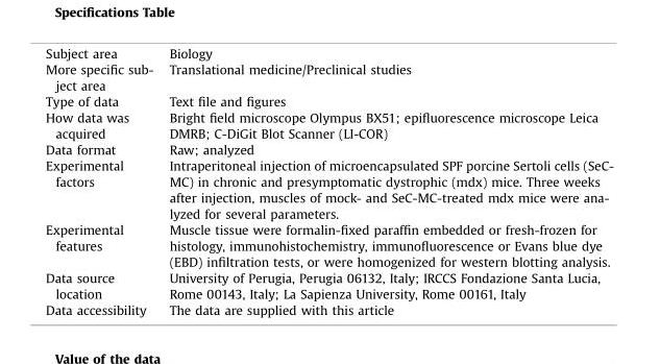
<table><tbody><tr><td>Subject area</td><td>Biology</td></tr><tr><td>More specific sub- ject area</td><td>Translational medicine/Preclinical studies</td></tr><tr><td>Type of data</td><td>Text file and figures</td></tr><tr><td>How data was acquired</td><td>Bright field microscope Olympus BX51; epifluorescence microscope Leica DMRB; C-DiGit Blot Scanner (LI-COR)</td></tr><tr><td>Data format</td><td>Raw; analyzed</td></tr><tr><td>Experimental factors</td><td>Intraperitoneal injection of microencapsulated SPF porcine Sertoli cells (SeC- MC) in chronic and presymptomatic dystrophic (mdx) mice. Three weeks after injection, muscles of mock- and SeC-MC-treated mdx mice were ana- lyzed for several parameters.</td></tr><tr><td>Experimental features</td><td>Muscle tissue were formalin-fixed paraffin embedded or fresh-frozen for histology, immunohistochemistry, immunofluorescence or Evans blue dye (EBD) infiltration tests, or were homogenized for western blotting analysis.</td></tr><tr><td>Data source location</td><td>University of Perugia, Perugia 06132, Italy; IRCCS Fondazione Santa Lucia, Rome 00143, Italy; La Sapienza University, Rome 00161, Italy</td></tr><tr><td>Data accessibility</td><td>The data are supplied with this article</td></tr></tbody></table>